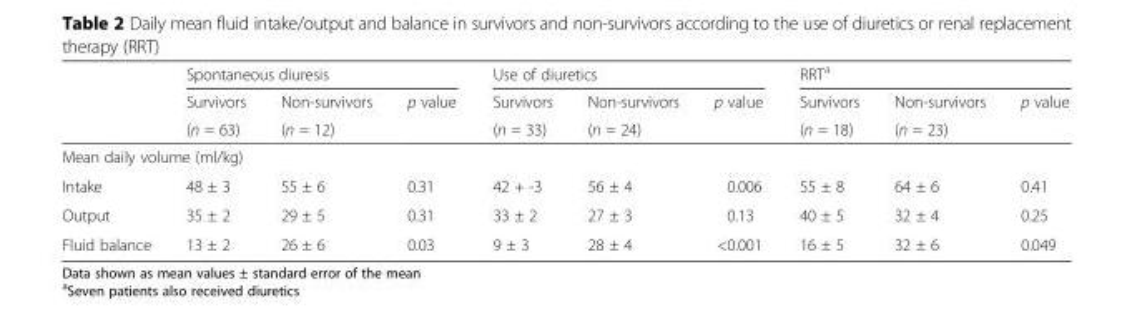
<table><thead><tr><td rowspan="3"></td><td colspan="3">Spontaneous diuresis</td><td colspan="3">Use of diuretics</td><td colspan="3">RRT<sup>a</sup></td></tr><tr><td rowspan="2">Survivors (n = 63)</td><td rowspan="2">Non-survivors (n = 12)</td><td rowspan="2">p value</td><td rowspan="2">Survivors (n = 33)</td><td rowspan="2">Non-survivors (n = 24)</td><td rowspan="2">p value</td><td rowspan="2">Survivors (n = 18)</td><td rowspan="2">Non-survivors (n = 23)</td><td rowspan="2">p value</td></tr><tr></tr></thead><tbody><tr><td colspan="10">Mean daily volume (ml/kg)</td></tr><tr><td>Intake</td><td>48 ± 3</td><td>55 ± 6</td><td>0.31</td><td>42 + -3</td><td>56 ± 4</td><td>0.006</td><td>55 ± 8</td><td>64 ± 6</td><td>0.41</td></tr><tr><td>Output</td><td>35 ± 2</td><td>29 ± 5</td><td>0.31</td><td>33 ± 2</td><td>27 ± 3</td><td>0.13</td><td>40 ± 5</td><td>32 ± 4</td><td>0.25</td></tr><tr><td>Fluid balance</td><td>13 ± 2</td><td>26 ± 6</td><td>0.03</td><td>9 ± 3</td><td>28 ± 4</td><td>&lt;0.001</td><td>16 ± 5</td><td>32 ± 6</td><td>0.049</td></tr></tbody></table>